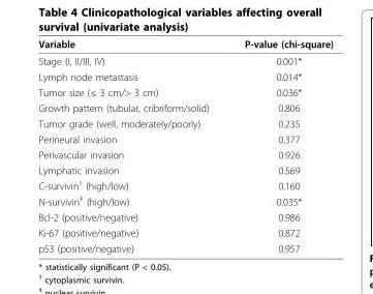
<table><thead><tr><td>Variable</td><td>P-value (chi-square)</td></tr></thead><tbody><tr><td>Stage (I, II/III, IV)</td><td>0.001*</td></tr><tr><td>Lymph node metastasis</td><td>0.014*</td></tr><tr><td>Tumor size (≤ 3 cm/&gt; 3 cm)</td><td>0.036*</td></tr><tr><td>Growth pattern (tubular, cribriform/solid)</td><td>0.806</td></tr><tr><td>Tumor grade (well, moderately/poorly)</td><td>0.235</td></tr><tr><td>Perineural invasion</td><td>0.377</td></tr><tr><td>Perivascular invasion</td><td>0.926</td></tr><tr><td>Lymphatic invasion</td><td>0.569</td></tr><tr><td>C-survivin<sup>†</sup> (high/low)</td><td>0.160</td></tr><tr><td>N-survivin<sup>‡</sup> (high/low)</td><td>0.035*</td></tr><tr><td>Bcl-2 (positive/negative)</td><td>0.986</td></tr><tr><td>Ki-67 (positive/negative)</td><td>0.872</td></tr><tr><td>p53 (positive/negative)</td><td>0.957</td></tr></tbody></table>